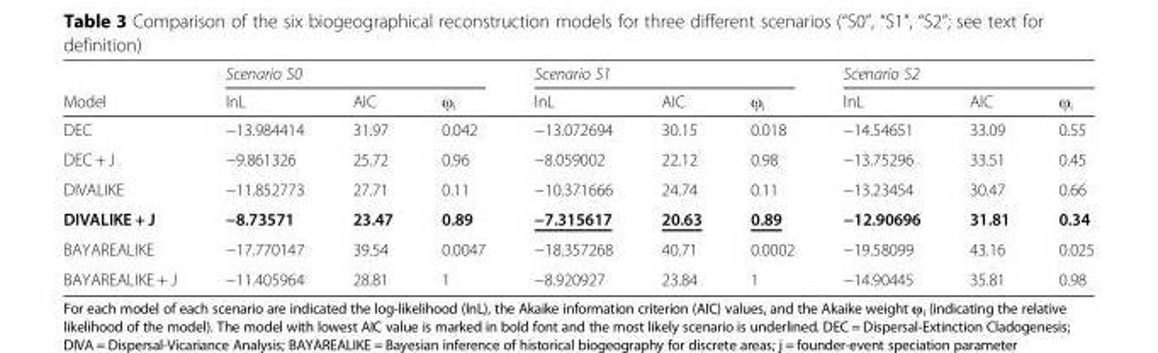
<table><thead><tr><td rowspan="2">Model</td><td colspan="3">Scenario S0</td><td colspan="3">Scenario S1</td><td colspan="3">Scenario S2</td></tr><tr><td>lnL</td><td>AIC</td><td>ῳ<sub>i</sub></td><td>lnL</td><td>AIC</td><td>ῳ<sub>i</sub></td><td>lnL</td><td>AIC</td><td>ῳ<sub>i</sub></td></tr></thead><tbody><tr><td>DEC</td><td>−13.984414</td><td>31.97</td><td>0.042</td><td>−13.072694</td><td>30.15</td><td>0.018</td><td>−14.54651</td><td>33.09</td><td>0.55</td></tr><tr><td>DEC + J</td><td>−9.861326</td><td>25.72</td><td>0.96</td><td>−8.059002</td><td>22.12</td><td>0.98</td><td>−13.75296</td><td>33.51</td><td>0.45</td></tr><tr><td>DIVALIKE</td><td>−11.852773</td><td>27.71</td><td>0.11</td><td>−10.371666</td><td>24.74</td><td>0.11</td><td>−13.23454</td><td>30.47</td><td>0.66</td></tr><tr><td>DIVALIKE + J</td><td>−8.73571</td><td>23.47</td><td>0.89</td><td>−7.315617</td><td>20.63</td><td>0.89</td><td>−12.90696</td><td>31.81</td><td>0.34</td></tr><tr><td>BAYAREALIKE</td><td>−17.770147</td><td>39.54</td><td>0.0047</td><td>−18.357268</td><td>40.71</td><td>0.0002</td><td>−19.58099</td><td>43.16</td><td>0.025</td></tr><tr><td>BAYAREALIKE + J</td><td>−11.405964</td><td>28.81</td><td>1</td><td>−8.920927</td><td>23.84</td><td>1</td><td>−14.90445</td><td>35.81</td><td>0.98</td></tr></tbody></table>